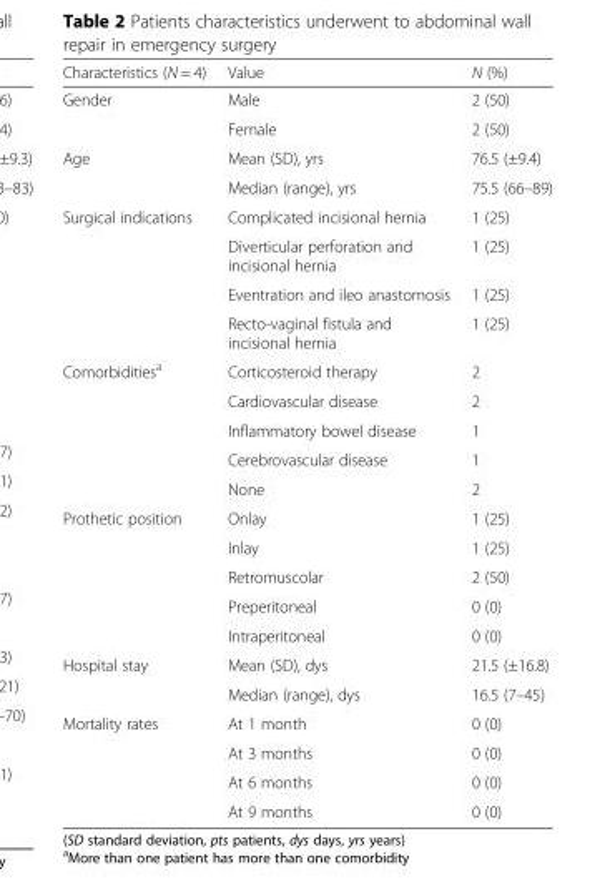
<table><thead><tr><td>Characteristics (N = 4)</td><td>Value</td><td>N (%)</td></tr></thead><tbody><tr><td rowspan="2">Gender</td><td>Male</td><td>2 (50)</td></tr><tr><td>Female</td><td>2 (50)</td></tr><tr><td rowspan="2">Age</td><td>Mean (SD), yrs</td><td>76.5 (±9.4)</td></tr><tr><td>Median (range), yrs</td><td>75.5 (66–89)</td></tr><tr><td rowspan="4">Surgical indications</td><td>Complicated incisional hernia</td><td>1 (25)</td></tr><tr><td>Diverticular perforation and incisional hernia</td><td>1 (25)</td></tr><tr><td>Eventration and ileo anastomosis</td><td>1 (25)</td></tr><tr><td>Recto-vaginal fistula and incisional hernia</td><td>1 (25)</td></tr><tr><td rowspan="5">Comorbidities<sup>a</sup></td><td>Corticosteroid therapy</td><td>2</td></tr><tr><td>Cardiovascular disease</td><td>2</td></tr><tr><td>Inflammatory bowel disease</td><td>1</td></tr><tr><td>Cerebrovascular disease</td><td>1</td></tr><tr><td>None</td><td>2</td></tr><tr><td rowspan="5">Prothetic position</td><td>Onlay</td><td>1 (25)</td></tr><tr><td>Inlay</td><td>1 (25)</td></tr><tr><td>Retromuscolar</td><td>2 (50)</td></tr><tr><td>Preperitoneal</td><td>0 (0)</td></tr><tr><td>Intraperitoneal</td><td>0 (0)</td></tr><tr><td rowspan="2">Hospital stay</td><td>Mean (SD), dys</td><td>21.5 (±16.8)</td></tr><tr><td>Median (range), dys</td><td>16.5 (7–45)</td></tr><tr><td rowspan="4">Mortality rates</td><td>At 1 month</td><td>0 (0)</td></tr><tr><td>At 3 months</td><td>0 (0)</td></tr><tr><td>At 6 months</td><td>0 (0)</td></tr><tr><td>At 9 months</td><td>0 (0)</td></tr></tbody></table>